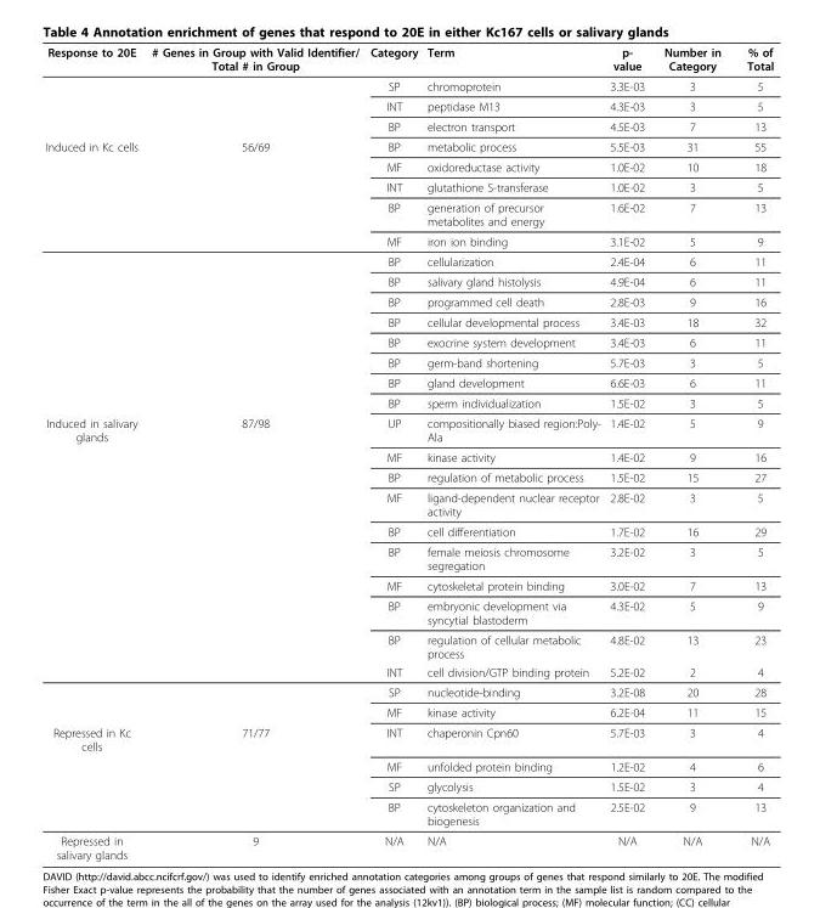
<table><thead><tr><td>Response to 20E</td><td># Genes in Group with Valid Identifier/ Total # in Group</td><td>Category</td><td>Term</td><td>p- value</td><td>Number in Category</td><td>% of Total</td></tr></thead><tbody><tr><td></td><td></td><td>SP</td><td>chromoprotein</td><td>3.3E-03</td><td>3</td><td>5</td></tr><tr><td></td><td></td><td>INT</td><td>peptidase M13</td><td>4.3E-03</td><td>3</td><td>5</td></tr><tr><td></td><td></td><td>BP</td><td>electron transport</td><td>4.5E-03</td><td>7</td><td>13</td></tr><tr><td rowspan="13">Induced in Kc cells</td><td>56/69</td><td>BP</td><td>metabolic process</td><td>5.5E-03</td><td>31</td><td>55</td></tr><tr><td></td><td>MF</td><td>oxidoreductase activity</td><td>1.0E-02</td><td>10</td><td>18</td></tr><tr><td></td><td>INT</td><td>glutathione S-transferase</td><td>1.0E-02</td><td>3</td><td>5</td></tr><tr><td></td><td>BP</td><td>generation of precursor metabolites and energy</td><td>1.6E-02</td><td>7</td><td>13</td></tr><tr><td></td><td>MF</td><td>iron ion binding</td><td>3.1E-02</td><td>5</td><td>9</td></tr><tr><td></td><td>BP</td><td>cellularization</td><td>2.4E-04</td><td>6</td><td>11</td></tr><tr><td></td><td>BP</td><td>salivary gland histolysis</td><td>4.9E-04</td><td>6</td><td>11</td></tr><tr><td></td><td>BP</td><td>programmed cell death</td><td>2.8E-03</td><td>9</td><td>16</td></tr><tr><td></td><td>BP</td><td>cellular developmental process</td><td>3.4E-03</td><td>18</td><td>32</td></tr><tr><td></td><td>BP</td><td>exocrine system development</td><td>3.4E-03</td><td>6</td><td>11</td></tr><tr><td></td><td>BP</td><td>germ-band shortening</td><td>5.7E-03</td><td>3</td><td>5</td></tr><tr><td></td><td>BP</td><td>gland development</td><td>6.6E-03</td><td>6</td><td>11</td></tr><tr><td></td><td>BP</td><td>sperm individualization</td><td>1.5E-02</td><td>3</td><td>5</td></tr><tr><td rowspan="12">Induced in salivary glands</td><td>87/98</td><td>UP</td><td>compositionally biased region:Poly- Ala</td><td>1.4E-02</td><td>5</td><td>9</td></tr><tr><td></td><td>MF</td><td>kinase activity</td><td>1.4E-02</td><td>9</td><td>16</td></tr><tr><td></td><td>BP</td><td>regulation of metabolic process</td><td>1.5E-02</td><td>15</td><td>27</td></tr><tr><td></td><td>MF</td><td>ligand-dependent nuclear receptor activity</td><td>2.8E-02</td><td>3</td><td>5</td></tr><tr><td></td><td>BP</td><td>cell differentiation</td><td>1.7E-02</td><td>16</td><td>29</td></tr><tr><td></td><td>BP</td><td>female meiosis chromosome segregation</td><td>3.2E-02</td><td>3</td><td>5</td></tr><tr><td></td><td>MF</td><td>cytoskeletal protein binding</td><td>3.0E-02</td><td>7</td><td>13</td></tr><tr><td></td><td>BP</td><td>embryonic development via syncytial blastoderm</td><td>4.3E-02</td><td>5</td><td>9</td></tr><tr><td></td><td>BP</td><td>regulation of cellular metabolic process</td><td>4.8E-02</td><td>13</td><td>23</td></tr><tr><td></td><td>INT</td><td>cell division/GTP binding protein</td><td>5.2E-02</td><td>2</td><td>4</td></tr><tr><td></td><td>SP</td><td>nucleotide-binding</td><td>3.2E-08</td><td>20</td><td>28</td></tr><tr><td></td><td>MF</td><td>kinase activity</td><td>6.2E-04</td><td>11</td><td>15</td></tr><tr><td rowspan="4">Repressed in Kc cells</td><td>71/77</td><td>INT</td><td>chaperonin Cpn60</td><td>5.7E-03</td><td>3</td><td>4</td></tr><tr><td></td><td>MF</td><td>unfolded protein binding</td><td>1.2E-02</td><td>4</td><td>6</td></tr><tr><td></td><td>SP</td><td>glycolysis</td><td>1.5E-02</td><td>3</td><td>4</td></tr><tr><td></td><td>BP</td><td>cytoskeleton organization and biogenesis</td><td>2.5E-02</td><td>9</td><td>13</td></tr><tr><td>Repressed in salivary glands</td><td>9</td><td>N/A</td><td>N/A</td><td>N/A</td><td>N/A</td><td>N/A</td></tr></tbody></table>